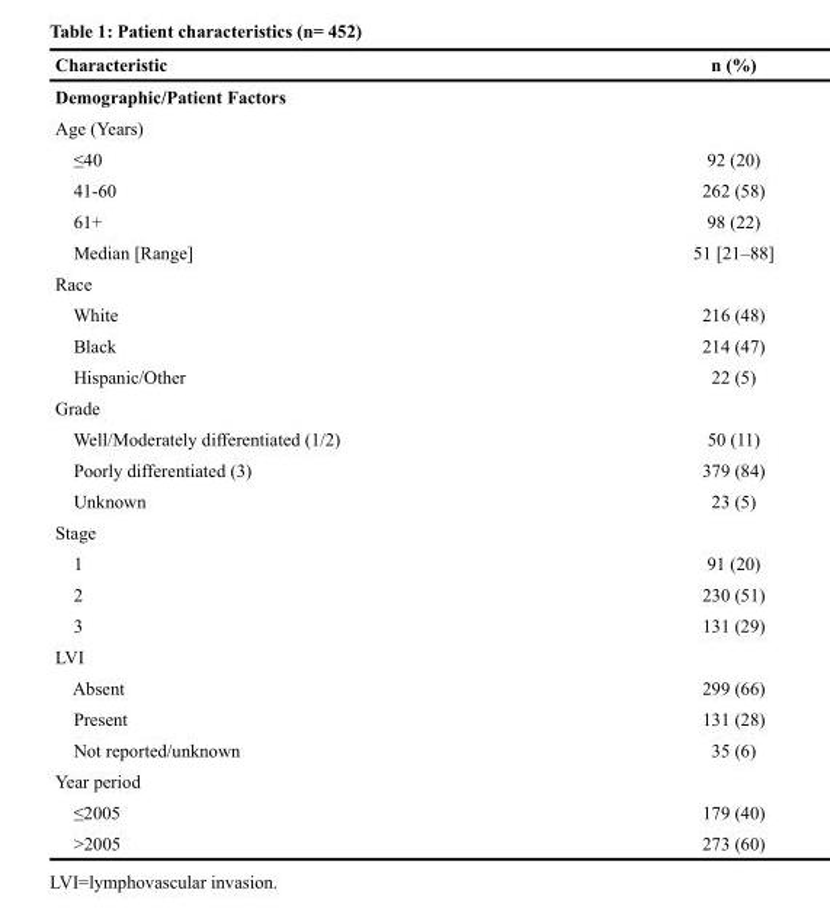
<table><thead><tr><td>Characteristic</td><td>n (%)</td></tr></thead><tbody><tr><td colspan="2">Demographic/Patient Factors</td></tr><tr><td colspan="2">Age (Years)</td></tr><tr><td>≤40</td><td>92 (20)</td></tr><tr><td>41-60</td><td>262 (58)</td></tr><tr><td>61+</td><td>98 (22)</td></tr><tr><td>Median [Range]</td><td>51 [21–88]</td></tr><tr><td colspan="2">Race</td></tr><tr><td>White</td><td>216 (48)</td></tr><tr><td>Black</td><td>214 (47)</td></tr><tr><td>Hispanic/Other</td><td>22 (5)</td></tr><tr><td colspan="2">Grade</td></tr><tr><td>Well/Moderately differentiated (1/2)</td><td>50 (11)</td></tr><tr><td>Poorly differentiated (3)</td><td>379 (84)</td></tr><tr><td>Unknown</td><td>23 (5)</td></tr><tr><td colspan="2">Stage</td></tr><tr><td>1</td><td>91 (20)</td></tr><tr><td>2</td><td>230 (51)</td></tr><tr><td>3</td><td>131 (29)</td></tr><tr><td colspan="2">LVI</td></tr><tr><td>Absent</td><td>299 (66)</td></tr><tr><td>Present</td><td>131 (28)</td></tr><tr><td>Not reported/unknown</td><td>35 (6)</td></tr><tr><td colspan="2">Year period</td></tr><tr><td>≤2005</td><td>179 (40)</td></tr><tr><td>&gt;2005</td><td>273 (60)</td></tr></tbody></table>